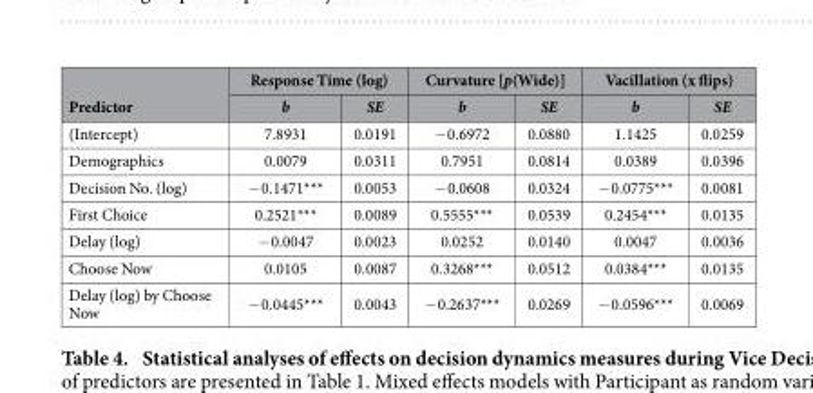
<table><thead><tr><td rowspan="2">Predictor</td><td colspan="2">Response Time (log)</td><td colspan="2">Curvature [p(Wide)]</td><td colspan="2">Vacillation (x flips)</td></tr><tr><td>b</td><td>SE</td><td>b</td><td>SE</td><td>b</td><td>SE</td></tr></thead><tbody><tr><td>(Intercept)</td><td>7.8931</td><td>0.0191</td><td>− 0.6972</td><td>0.0880</td><td>1.1425</td><td>0.0259</td></tr><tr><td>Demographics</td><td>0.0079</td><td>0.0311</td><td>0.7951</td><td>0.0814</td><td>0.0389</td><td>0.0396</td></tr><tr><td>Decision No. (log)</td><td>− 0.1471***</td><td>0.0053</td><td>− 0.0608</td><td>0.0324</td><td>− 0.0775***</td><td>0.0081</td></tr><tr><td>First Choice</td><td>0.2521***</td><td>0.0089</td><td>0.5555***</td><td>0.0539</td><td>0.2454***</td><td>0.0135</td></tr><tr><td>Delay (log)</td><td>− 0.0047</td><td>0.0023</td><td>0.0252</td><td>0.0140</td><td>0.0047</td><td>0.0036</td></tr><tr><td>Choose Now</td><td>0.0105</td><td>0.0087</td><td>0.3268***</td><td>0.0512</td><td>0.0384***</td><td>0.0135</td></tr><tr><td>Delay (log) by Choose Now</td><td>− 0.0445***</td><td>0.0043</td><td>− 0.2637***</td><td>0.0269</td><td>− 0.0596***</td><td>0.0069</td></tr></tbody></table>